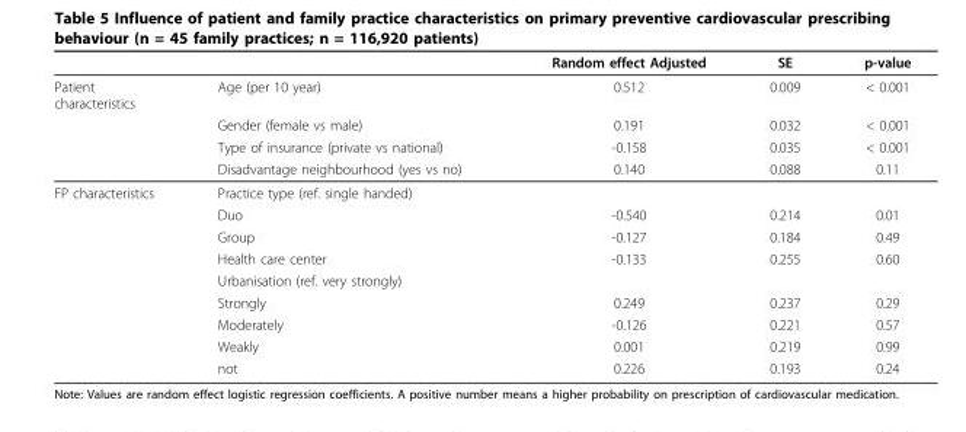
<table><thead><tr><td></td><td></td><td>Random effect Adjusted</td><td>SE</td><td>p-value</td></tr></thead><tbody><tr><td rowspan="4">Patient characteristics</td><td>Age (per 10 year)</td><td>0.512</td><td>0.009</td><td>&lt; 0.001</td></tr><tr><td>Gender (female vs male)</td><td>0.191</td><td>0.032</td><td>&lt; 0.001</td></tr><tr><td>Type of insurance (private vs national)</td><td>-0.158</td><td>0.035</td><td>&lt; 0.001</td></tr><tr><td>Disadvantage neighbourhood (yes vs no)</td><td>0.140</td><td>0.088</td><td>0.11</td></tr><tr><td rowspan="9">FP characteristics</td><td>Practice type (ref. single handed)</td><td></td><td></td><td></td></tr><tr><td>Duo</td><td>-0.540</td><td>0.214</td><td>0.01</td></tr><tr><td>Group</td><td>-0.127</td><td>0.184</td><td>0.49</td></tr><tr><td>Health care center</td><td>-0.133</td><td>0.255</td><td>0.60</td></tr><tr><td>Urbanisation (ref. very strongly)</td><td></td><td></td><td></td></tr><tr><td>Strongly</td><td>0.249</td><td>0.237</td><td>0.29</td></tr><tr><td>Moderately</td><td>-0.126</td><td>0.221</td><td>0.57</td></tr><tr><td>Weakly</td><td>0.001</td><td>0.219</td><td>0.99</td></tr><tr><td>not</td><td>0.226</td><td>0.193</td><td>0.24</td></tr></tbody></table>